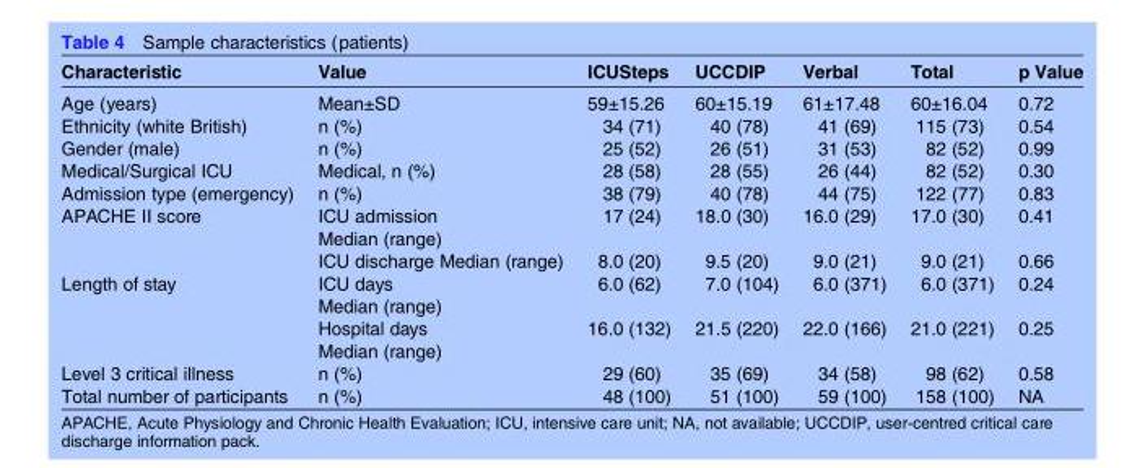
<table><thead><tr><td>Characteristic</td><td>Value</td><td>ICUSteps</td><td>UCCDIP</td><td>Verbal</td><td>Total</td><td>p Value</td></tr></thead><tbody><tr><td>Age (years)</td><td>Mean±SD</td><td>59±15.26</td><td>60±15.19</td><td>61±17.48</td><td>60±16.04</td><td>0.72</td></tr><tr><td>Ethnicity (white British)</td><td>n (%)</td><td>34 (71)</td><td>40 (78)</td><td>41 (69)</td><td>115 (73)</td><td>0.54</td></tr><tr><td>Gender (male)</td><td>n (%)</td><td>25 (52)</td><td>26 (51)</td><td>31 (53)</td><td>82 (52)</td><td>0.99</td></tr><tr><td>Medical/Surgical ICU</td><td>Medical, n (%)</td><td>28 (58)</td><td>28 (55)</td><td>26 (44)</td><td>82 (52)</td><td>0.30</td></tr><tr><td>Admission type (emergency)</td><td>n (%)</td><td>38 (79)</td><td>40 (78)</td><td>44 (75)</td><td>122 (77)</td><td>0.83</td></tr><tr><td rowspan="2">APACHE II score</td><td>ICU admission Median (range)</td><td>17 (24)</td><td>18.0 (30)</td><td>16.0 (29)</td><td>17.0 (30)</td><td>0.41</td></tr><tr><td>ICU discharge Median (range)</td><td>8.0 (20)</td><td>9.5 (20)</td><td>9.0 (21)</td><td>9.0 (21)</td><td>0.66</td></tr><tr><td rowspan="2">Length of stay</td><td>ICU days Median (range)</td><td>6.0 (62)</td><td>7.0 (104)</td><td>6.0 (371)</td><td>6.0 (371)</td><td>0.24</td></tr><tr><td>Hospital days Median (range)</td><td>16.0 (132)</td><td>21.5 (220)</td><td>22.0 (166)</td><td>21.0 (221)</td><td>0.25</td></tr><tr><td>Level 3 critical illness</td><td>n (%)</td><td>29 (60)</td><td>35 (69)</td><td>34 (58)</td><td>98 (62)</td><td>0.58</td></tr><tr><td>Total number of participants</td><td>n (%)</td><td>48 (100)</td><td>51 (100)</td><td>59 (100)</td><td>158 (100)</td><td>NA</td></tr></tbody></table>